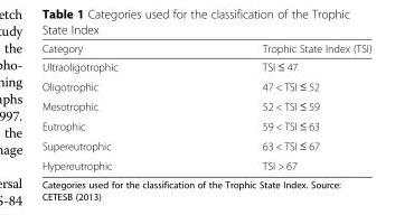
<table><thead><tr><td>Category</td><td>Trophic State Index (TSI)</td></tr></thead><tbody><tr><td>Ultraoligotrophic</td><td>TSI ≤ 47</td></tr><tr><td>Oligotrophic</td><td>47 &lt; TSI ≤ 52</td></tr><tr><td>Mesotrophic</td><td>52 &lt; TSI ≤ 59</td></tr><tr><td>Eutrophic</td><td>59 &lt; TSI ≤ 63</td></tr><tr><td>Supereutrophic</td><td>63 &lt; TSI ≤ 67</td></tr><tr><td>Hypereutrophic</td><td>TSI &gt; 67</td></tr></tbody></table>